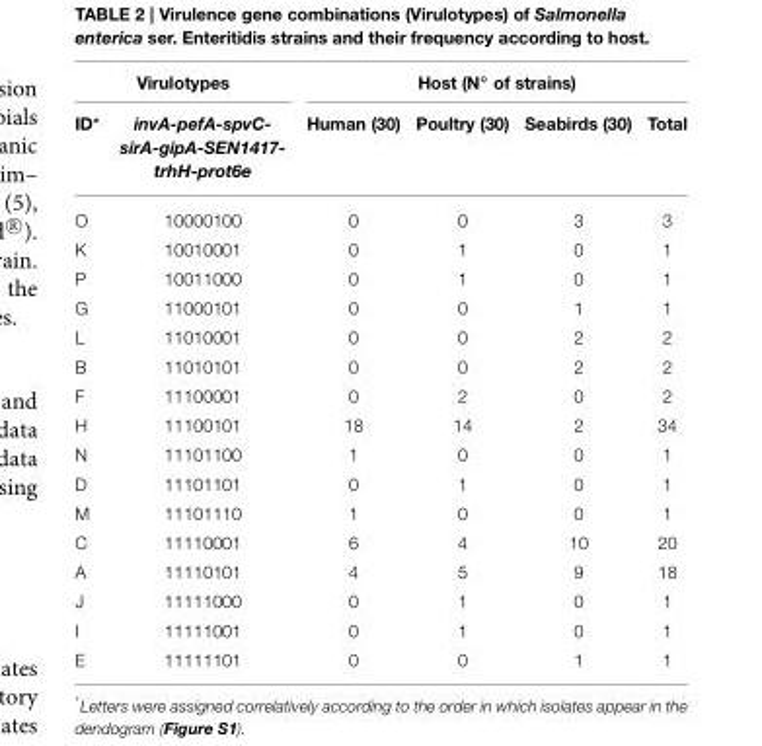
<table><thead><tr><td colspan="2">Virulotypes</td><td colspan="4">Host (N◦ of strains)</td></tr><tr><td>ID*</td><td>invA-pefA-spvC- sirA-gipA-SEN1417- trhH-prot6e</td><td>Human (30)</td><td>Poultry (30)</td><td>Seabirds (30)</td><td>Total</td></tr></thead><tbody><tr><td>O</td><td>10000100</td><td>0</td><td>0</td><td>3</td><td>3</td></tr><tr><td>K</td><td>10010001</td><td>0</td><td>1</td><td>0</td><td>1</td></tr><tr><td>P</td><td>10011000</td><td>0</td><td>1</td><td>0</td><td>1</td></tr><tr><td>G</td><td>11000101</td><td>0</td><td>0</td><td>1</td><td>1</td></tr><tr><td>L</td><td>11010001</td><td>0</td><td>0</td><td>2</td><td>2</td></tr><tr><td>B</td><td>11010101</td><td>0</td><td>0</td><td>2</td><td>2</td></tr><tr><td>F</td><td>11100001</td><td>0</td><td>2</td><td>0</td><td>2</td></tr><tr><td>H</td><td>11100101</td><td>18</td><td>14</td><td>2</td><td>34</td></tr><tr><td>N</td><td>11101100</td><td>1</td><td>0</td><td>0</td><td>1</td></tr><tr><td>D</td><td>11101101</td><td>0</td><td>1</td><td>0</td><td>1</td></tr><tr><td>M</td><td>11101110</td><td>1</td><td>0</td><td>0</td><td>1</td></tr><tr><td>C</td><td>11110001</td><td>6</td><td>4</td><td>10</td><td>20</td></tr><tr><td>A</td><td>11110101</td><td>4</td><td>5</td><td>9</td><td>18</td></tr><tr><td>J</td><td>11111000</td><td>0</td><td>1</td><td>0</td><td>1</td></tr><tr><td>I</td><td>11111001</td><td>0</td><td>1</td><td>0</td><td>1</td></tr><tr><td>E</td><td>11111101</td><td>0</td><td>0</td><td>1</td><td>1</td></tr></tbody></table>